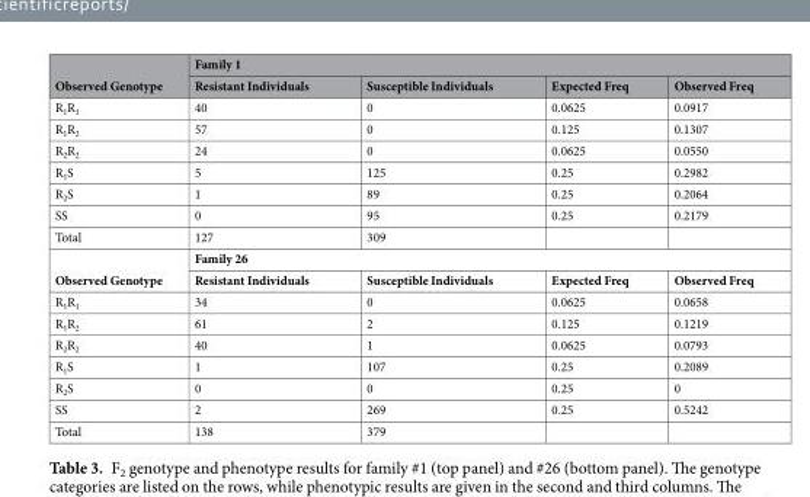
<table><thead><tr><td rowspan="2">Observed Genotype</td><td colspan="4">Family 1</td></tr><tr><td>Resistant Individuals</td><td>Susceptible Individuals</td><td>Expected Freq</td><td>Observed Freq</td></tr></thead><tbody><tr><td>R<sub>1</sub>R<sub>1</sub></td><td>40</td><td>0</td><td>0.0625</td><td>0.0917</td></tr><tr><td>R<sub>1</sub>R<sub>2</sub></td><td>57</td><td>0</td><td>0.125</td><td>0.1307</td></tr><tr><td>R<sub>2</sub>R<sub>2</sub></td><td>24</td><td>0</td><td>0.0625</td><td>0.0550</td></tr><tr><td>R<sub>1</sub>S</td><td>5</td><td>125</td><td>0.25</td><td>0.2982</td></tr><tr><td>R<sub>2</sub>S</td><td>1</td><td>89</td><td>0.25</td><td>0.2064</td></tr><tr><td>SS</td><td>0</td><td>95</td><td>0.25</td><td>0.2179</td></tr><tr><td>Total</td><td>127</td><td>309</td><td></td><td></td></tr><tr><td rowspan="2">Observed Genotype</td><td colspan="4">Family 26</td></tr><tr><td>Resistant Individuals</td><td>Susceptible Individuals</td><td>Expected Freq</td><td>Observed Freq</td></tr><tr><td>R<sub>1</sub>R<sub>1</sub></td><td>34</td><td>0</td><td>0.0625</td><td>0.0658</td></tr><tr><td>R<sub>1</sub>R<sub>2</sub></td><td>61</td><td>2</td><td>0.125</td><td>0.1219</td></tr><tr><td>R<sub>2</sub>R<sub>2</sub></td><td>40</td><td>1</td><td>0.0625</td><td>0.0793</td></tr><tr><td>R<sub>1</sub>S</td><td>1</td><td>107</td><td>0.25</td><td>0.2089</td></tr><tr><td>R<sub>2</sub>S</td><td>0</td><td>0</td><td>0.25</td><td>0</td></tr><tr><td>SS</td><td>2</td><td>269</td><td>0.25</td><td>0.5242</td></tr><tr><td>Total</td><td>138</td><td>379</td><td></td><td></td></tr></tbody></table>